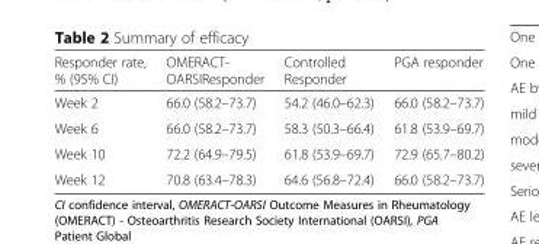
<table><thead><tr><td>Responder rate, % (95% CI)</td><td>OMERACT- OARSIResponder</td><td>Controlled Responder</td><td>PGA responder</td></tr></thead><tbody><tr><td>Week 2</td><td>66.0 (58.2–73.7)</td><td>54.2 (46.0–62.3)</td><td>66.0 (58.2–73.7)</td></tr><tr><td>Week 6</td><td>66.0 (58.2–73.7)</td><td>58.3 (50.3–66.4)</td><td>61.8 (53.9–69.7)</td></tr><tr><td>Week 10</td><td>72.2 (64.9–79.5)</td><td>61.8 (53.9–69.7)</td><td>72.9 (65.7–80.2)</td></tr><tr><td>Week 12</td><td>70.8 (63.4–78.3)</td><td>64.6 (56.8–72.4)</td><td>66.0 (58.2–73.7)</td></tr></tbody></table>